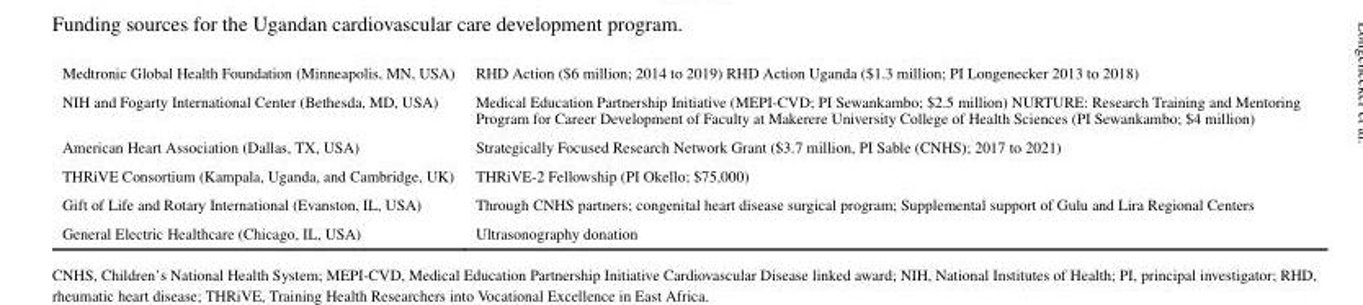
<table><tbody><tr><td>Medtronic Global Health Foundation (Minneapolis, MN, USA)</td><td>RHD Action ($6 million; 2014 to 2019) RHD Action Uganda ($1.3 million; PI Longenecker 2013 to 2018)</td></tr><tr><td>NIH and Fogarty International Center (Bethesda, MD, USA)</td><td>Medical Education Partnership Initiative (MEPI-CVD; PI Sewankambo; $2.5 million) NURTURE: Research Training and Mentoring Program for Career Development of Faculty at Makerere University College of Health Sciences (PI Sewankambo; $4 million)</td></tr><tr><td>American Heart Association (Dallas, TX, USA)</td><td>Strategically Focused Research Network Grant ($3.7 million, PI Sable (CNHS); 2017 to 2021)</td></tr><tr><td>THRiVE Consortium (Kampala, Uganda, and Cambridge, UK)</td><td>THRiVE-2 Fellowship (PI Okello; $75,000)</td></tr><tr><td>Gift of Life and Rotary International (Evanston, IL, USA)</td><td>Through CNHS partners; congenital heart disease surgical program; Supplemental support of Gulu and Lira Regional Centers</td></tr><tr><td>General Electric Healthcare (Chicago, IL, USA)</td><td>Ultrasonography donation</td></tr></tbody></table>